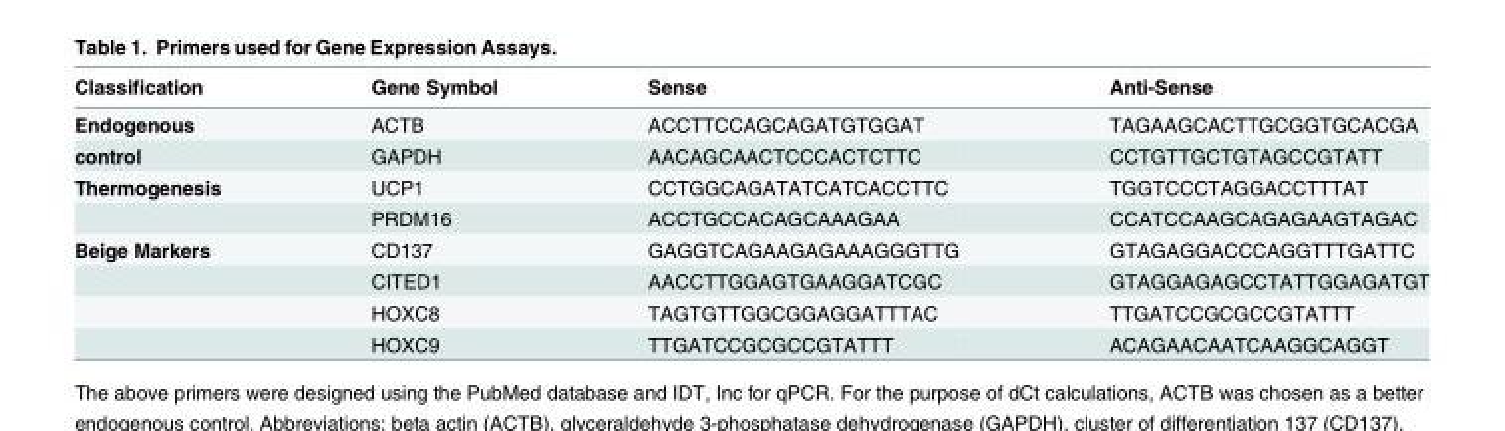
<table><thead><tr><td>Classification</td><td>Gene Symbol</td><td>Sense</td><td>Anti-Sense</td></tr></thead><tbody><tr><td>Endogenous</td><td>ACTB</td><td>ACCTTCCAGCAGATGTGGAT</td><td>TAGAAGCACTTGCGGTGCACGA</td></tr><tr><td>control</td><td>GAPDH</td><td>AACAGCAACTCCCACTCTTC</td><td>CCTGTTGCTGTAGCCGTATT</td></tr><tr><td rowspan="2">Thermogenesis</td><td>UCP1</td><td>CCTGGCAGATATCATCACCTTC</td><td>TGGTCCCTAGGACCTTTAT</td></tr><tr><td>PRDM16</td><td>ACCTGCCACAGCAAAGAA</td><td>CCATCCAAGCAGAGAAGTAGAC</td></tr><tr><td rowspan="4">Beige Markers</td><td>CD137</td><td>GAGGTCAGAAGAGAAAGGGTTG</td><td>GTAGAGGACCCAGGTTTGATTC</td></tr><tr><td>CITED1</td><td>AACCTTGGAGTGAAGGATCGC</td><td>GTAGGAGAGCCTATTGGAGATGT</td></tr><tr><td>HOXC8</td><td>TAGTGTTGGCGGAGGATTTAC</td><td>TTGATCCGCGCCGTATTT</td></tr><tr><td>HOXC9</td><td>TTGATCCGCGCCGTATTT</td><td>ACAGAACAATCAAGGCAGGT</td></tr></tbody></table>